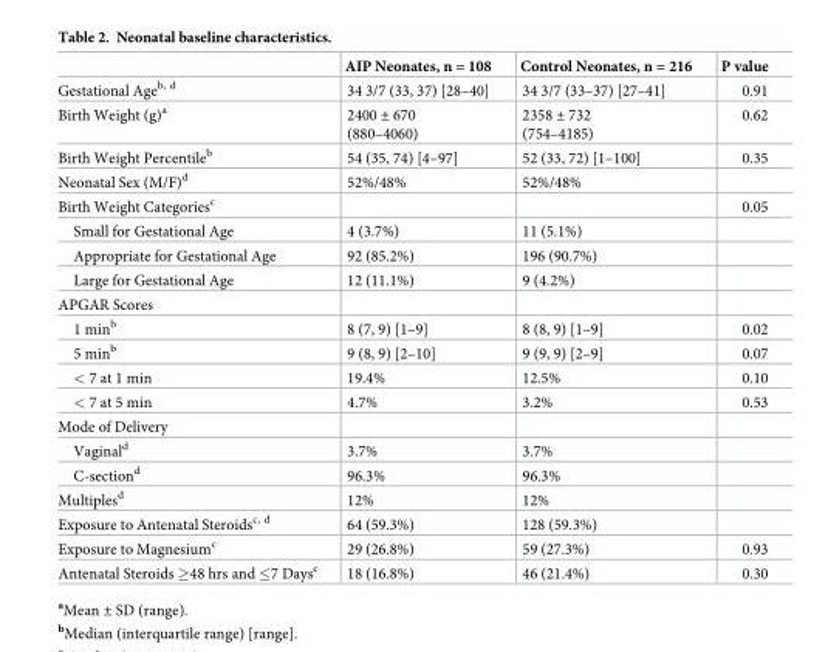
<table><thead><tr><td></td><td>AIP Neonates, n = 108</td><td>Control Neonates, n = 216</td><td>P value</td></tr></thead><tbody><tr><td>Gestational Age<sup>b, d</sup></td><td>34 3/7 (33, 37) [28–40]</td><td>34 3/7 (33–37) [27–41]</td><td>0.91</td></tr><tr><td>Birth Weight (g)<sup>a</sup></td><td>2400 ± 670 (880–4060)</td><td>2358 ± 732 (754–4185)</td><td>0.62</td></tr><tr><td>Birth Weight Percentile<sup>b</sup></td><td>54 (35, 74) [4–97]</td><td>52 (33, 72) [1–100]</td><td>0.35</td></tr><tr><td>Neonatal Sex (M/F)<sup>d</sup></td><td>52%/48%</td><td>52%/48%</td><td></td></tr><tr><td>Birth Weight Categories<sup>c</sup></td><td></td><td></td><td>0.05</td></tr><tr><td>Small for Gestational Age</td><td>4 (3.7%)</td><td>11 (5.1%)</td><td></td></tr><tr><td>Appropriate for Gestational Age</td><td>92 (85.2%)</td><td>196 (90.7%)</td><td></td></tr><tr><td>Large for Gestational Age</td><td>12 (11.1%)</td><td>9 (4.2%)</td><td></td></tr><tr><td colspan="4">APGAR Scores</td></tr><tr><td>1 min<sup>b</sup></td><td>8 (7, 9) [1–9]</td><td>8 (8, 9) [1–9]</td><td>0.02</td></tr><tr><td>5 min<sup>b</sup></td><td>9 (8, 9) [2–10]</td><td>9 (9, 9) [2–9]</td><td>0.07</td></tr><tr><td>&lt; 7 at 1 min</td><td>19.4%</td><td>12.5%</td><td>0.10</td></tr><tr><td>&lt; 7 at 5 min</td><td>4.7%</td><td>3.2%</td><td>0.53</td></tr><tr><td colspan="4">Mode of Delivery</td></tr><tr><td>Vaginal<sup>d</sup></td><td>3.7%</td><td>3.7%</td><td></td></tr><tr><td>C-section<sup>d</sup></td><td>96.3%</td><td>96.3%</td><td></td></tr><tr><td>Multiples<sup>d</sup></td><td>12%</td><td>12%</td><td></td></tr><tr><td>Exposure to Antenatal Steroids<sup>c, d</sup></td><td>64 (59.3%)</td><td>128 (59.3%)</td><td></td></tr><tr><td>Exposure to Magnesium<sup>c</sup></td><td>29 (26.8%)</td><td>59 (27.3%)</td><td>0.93</td></tr><tr><td>Antenatal Steroids ≥48 hrs and ≤7 Days<sup>c</sup></td><td>18 (16.8%)</td><td>46 (21.4%)</td><td>0.30</td></tr></tbody></table>